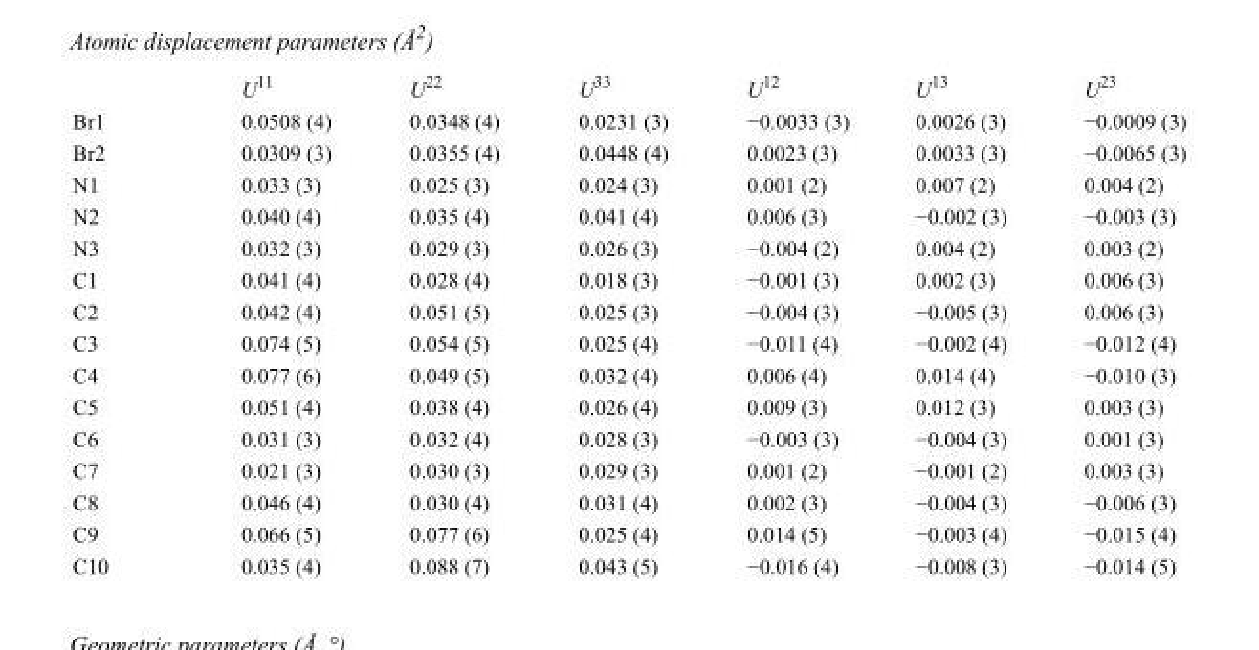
<table><thead><tr><td></td><td>U<sup>11</sup></td><td>U<sup>22</sup></td><td>U<sup>33</sup></td><td>U<sup>12</sup></td><td>U<sup>13</sup></td><td>U<sup>23</sup></td></tr></thead><tbody><tr><td>Br1</td><td>0.0508 (4)</td><td>0.0348 (4)</td><td>0.0231 (3)</td><td>−0.0033 (3)</td><td>0.0026 (3)</td><td>−0.0009 (3)</td></tr><tr><td>Br2</td><td>0.0309 (3)</td><td>0.0355 (4)</td><td>0.0448 (4)</td><td>0.0023 (3)</td><td>0.0033 (3)</td><td>−0.0065 (3)</td></tr><tr><td>N1</td><td>0.033 (3)</td><td>0.025 (3)</td><td>0.024 (3)</td><td>0.001 (2)</td><td>0.007 (2)</td><td>0.004 (2)</td></tr><tr><td>N2</td><td>0.040 (4)</td><td>0.035 (4)</td><td>0.041 (4)</td><td>0.006 (3)</td><td>−0.002 (3)</td><td>−0.003 (3)</td></tr><tr><td>N3</td><td>0.032 (3)</td><td>0.029 (3)</td><td>0.026 (3)</td><td>−0.004 (2)</td><td>0.004 (2)</td><td>0.003 (2)</td></tr><tr><td>C1</td><td>0.041 (4)</td><td>0.028 (4)</td><td>0.018 (3)</td><td>−0.001 (3)</td><td>0.002 (3)</td><td>0.006 (3)</td></tr><tr><td>C2</td><td>0.042 (4)</td><td>0.051 (5)</td><td>0.025 (3)</td><td>−0.004 (3)</td><td>−0.005 (3)</td><td>0.006 (3)</td></tr><tr><td>C3</td><td>0.074 (5)</td><td>0.054 (5)</td><td>0.025 (4)</td><td>−0.011 (4)</td><td>−0.002 (4)</td><td>−0.012 (4)</td></tr><tr><td>C4</td><td>0.077 (6)</td><td>0.049 (5)</td><td>0.032 (4)</td><td>0.006 (4)</td><td>0.014 (4)</td><td>−0.010 (3)</td></tr><tr><td>C5</td><td>0.051 (4)</td><td>0.038 (4)</td><td>0.026 (4)</td><td>0.009 (3)</td><td>0.012 (3)</td><td>0.003 (3)</td></tr><tr><td>C6</td><td>0.031 (3)</td><td>0.032 (4)</td><td>0.028 (3)</td><td>−0.003 (3)</td><td>−0.004 (3)</td><td>0.001 (3)</td></tr><tr><td>C7</td><td>0.021 (3)</td><td>0.030 (3)</td><td>0.029 (3)</td><td>0.001 (2)</td><td>−0.001 (2)</td><td>0.003 (3)</td></tr><tr><td>C8</td><td>0.046 (4)</td><td>0.030 (4)</td><td>0.031 (4)</td><td>0.002 (3)</td><td>−0.004 (3)</td><td>−0.006 (3)</td></tr><tr><td>C9</td><td>0.066 (5)</td><td>0.077 (6)</td><td>0.025 (4)</td><td>0.014 (5)</td><td>−0.003 (4)</td><td>−0.015 (4)</td></tr><tr><td>C10</td><td>0.035 (4)</td><td>0.088 (7)</td><td>0.043 (5)</td><td>−0.016 (4)</td><td>−0.008 (3)</td><td>−0.014 (5)</td></tr></tbody></table>